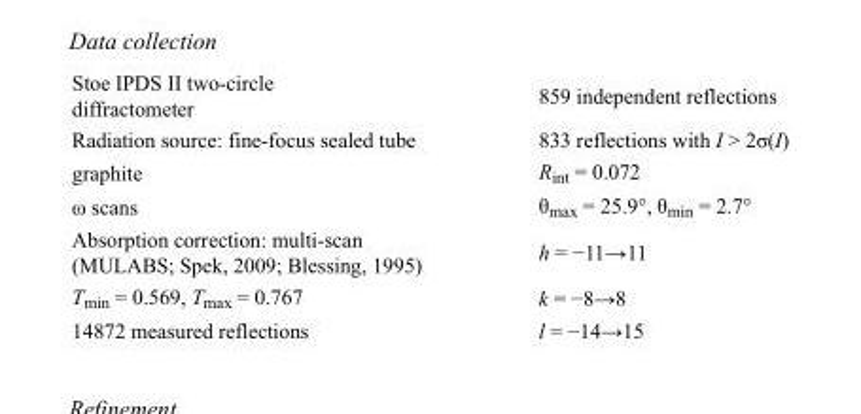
<table><tbody><tr><td>Stoe IPDS II two-circle diffractometer</td><td>859 independent reflections</td></tr><tr><td>Radiation source: fine-focus sealed tube</td><td>833 reflections with I &gt; 2σ(I)</td></tr><tr><td>graphite</td><td>R<sub>int</sub> = 0.072</td></tr><tr><td>ω scans</td><td>θ<sub>max</sub> = 25.9°, θ<sub>min</sub> = 2.7°</td></tr><tr><td>Absorption correction: multi-scan (MULABS; Spek, 2009; Blessing, 1995)</td><td>h = −11→11</td></tr><tr><td>T<sub>min</sub> = 0.569, T<sub>max</sub> = 0.767</td><td>k = −8→8</td></tr><tr><td>14872 measured reflections</td><td>l = −14→15</td></tr></tbody></table>